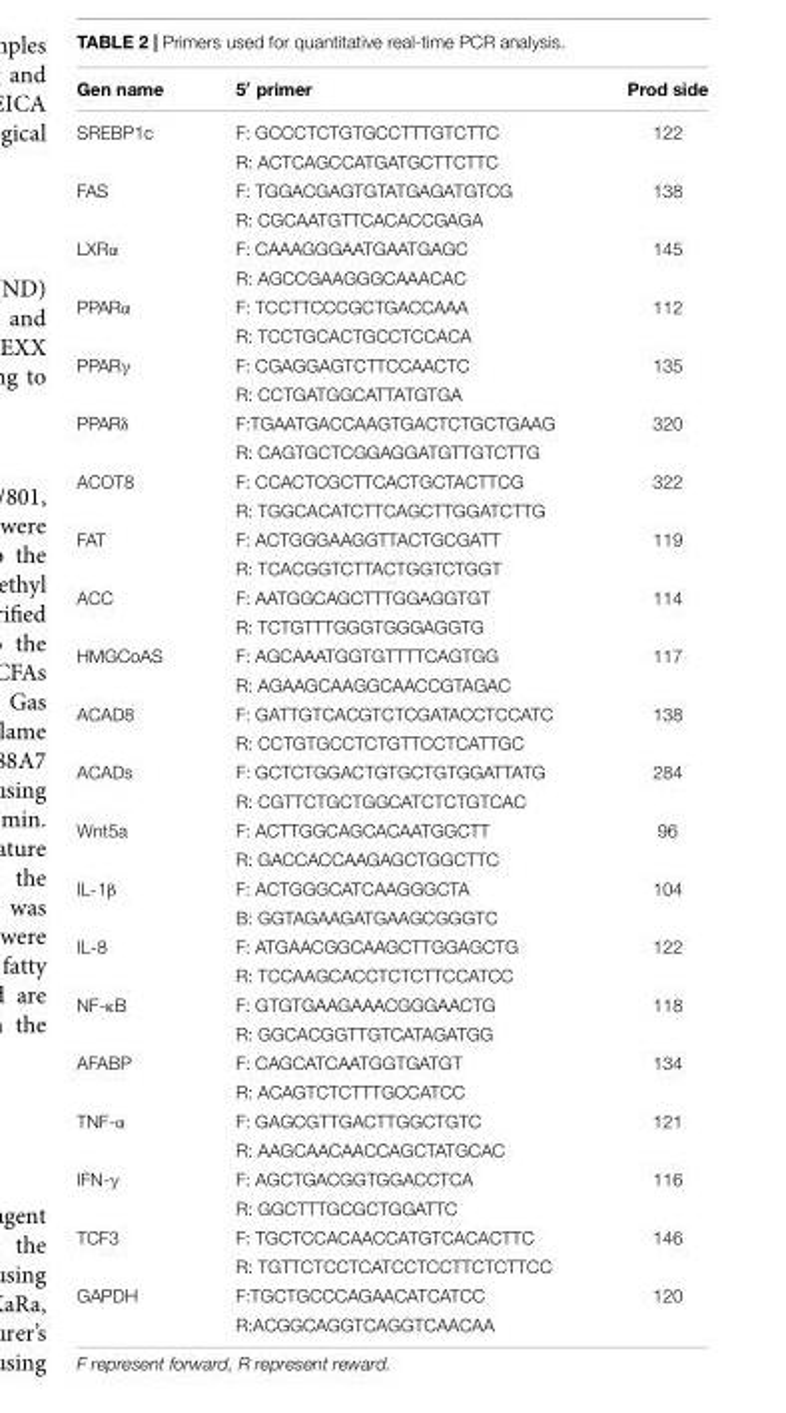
<table><thead><tr><td>Gen name</td><td>5<sup>′</sup> primer</td><td>Prod side</td></tr></thead><tbody><tr><td rowspan="2">SREBP1c</td><td>F: GCCCTCTGTGCCTTTGTCTTC</td><td>122</td></tr><tr><td>R: ACTCAGCCATGATGCTTCTTC</td><td></td></tr><tr><td rowspan="2">FAS</td><td>F: TGGACGAGTGTATGAGATGTCG</td><td>138</td></tr><tr><td>R: CGCAATGTTCACACCGAGA</td><td></td></tr><tr><td rowspan="2">LXRα</td><td>F: CAAAGGGAATGAATGAGC</td><td>145</td></tr><tr><td>R: AGCCGAAGGGCAAACAC</td><td></td></tr><tr><td rowspan="2">PPARα</td><td>F: TCCTTCCCGCTGACCAAA</td><td>112</td></tr><tr><td>R: TCCTGCACTGCCTCCACA</td><td></td></tr><tr><td rowspan="2">PPARγ</td><td>F: CGAGGAGTCTTCCAACTC</td><td>135</td></tr><tr><td>R: CCTGATGGCATTATGTGA</td><td></td></tr><tr><td rowspan="2">PPARδ</td><td>F:TGAATGACCAAGTGACTCTGCTGAAG</td><td>320</td></tr><tr><td>R: CAGTGCTCGGAGGATGTTGTCTTG</td><td></td></tr><tr><td rowspan="2">ACOT8</td><td>F: CCACTCGCTTCACTGCTACTTCG</td><td>322</td></tr><tr><td>R: TGGCACATCTTCAGCTTGGATCTTG</td><td></td></tr><tr><td rowspan="2">FAT</td><td>F: ACTGGGAAGGTTACTGCGATT</td><td>119</td></tr><tr><td>R: TCACGGTCTTACTGGTCTGGT</td><td></td></tr><tr><td rowspan="2">ACC</td><td>F: AATGGCAGCTTTGGAGGTGT</td><td>114</td></tr><tr><td>R: TCTGTTTGGGTGGGAGGTG</td><td></td></tr><tr><td rowspan="2">HMGCoAS</td><td>F: AGCAAATGGTGTTTTCAGTGG</td><td>117</td></tr><tr><td>R: AGAAGCAAGGCAACCGTAGAC</td><td></td></tr><tr><td rowspan="2">ACAD8</td><td>F: GATTGTCACGTCTCGATACCTCCATC</td><td>138</td></tr><tr><td>R: CCTGTGCCTCTGTTCCTCATTGC</td><td></td></tr><tr><td rowspan="2">ACADs</td><td>F: GCTCTGGACTGTGCTGTGGATTATG</td><td>284</td></tr><tr><td>R: CGTTCTGCTGGCATCTCTGTCAC</td><td></td></tr><tr><td rowspan="2">Wnt5a</td><td>F: ACTTGGCAGCACAATGGCTT</td><td>96</td></tr><tr><td>R: GACCACCAAGAGCTGGCTTC</td><td></td></tr><tr><td rowspan="2">IL-1β</td><td>F: ACTGGGCATCAAGGGCTA</td><td>104</td></tr><tr><td>B: GGTAGAAGATGAAGCGGGTC</td><td></td></tr><tr><td rowspan="2">IL-8</td><td>F: ATGAACGGCAAGCTTGGAGCTG</td><td>122</td></tr><tr><td>R: TCCAAGCACCTCTCTTCCATCC</td><td></td></tr><tr><td rowspan="2">NF-κB</td><td>F: GTGTGAAGAAACGGGAACTG</td><td>118</td></tr><tr><td>R: GGCACGGTTGTCATAGATGG</td><td></td></tr><tr><td rowspan="2">AFABP</td><td>F: CAGCATCAATGGTGATGT</td><td>134</td></tr><tr><td>R: ACAGTCTCTTTGCCATCC</td><td></td></tr><tr><td rowspan="2">TNF-α</td><td>F: GAGCGTTGACTTGGCTGTC</td><td>121</td></tr><tr><td>R: AAGCAACAACCAGCTATGCAC</td><td></td></tr><tr><td rowspan="2">IFN-γ</td><td>F: AGCTGACGGTGGACCTCA</td><td>116</td></tr><tr><td>R: GGCTTTGCGCTGGATTC</td><td></td></tr><tr><td rowspan="2">TCF3</td><td>F: TGCTCCACAACCATGTCACACTTC</td><td>146</td></tr><tr><td>R: TGTTCTCCTCATCCTCCTTCTCTTCC</td><td></td></tr><tr><td rowspan="2">GAPDH</td><td>F:TGCTGCCCAGAACATCATCC</td><td>120</td></tr><tr><td>R:ACGGCAGGTCAGGTCAACAA</td><td></td></tr></tbody></table>